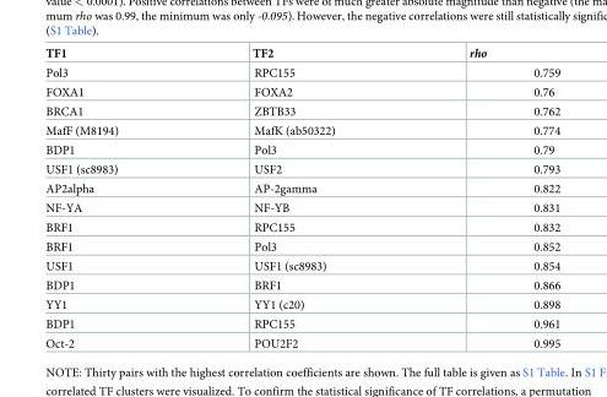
<table><thead><tr><td>TF1</td><td>TF2</td><td>rho</td></tr></thead><tbody><tr><td>Pol3</td><td>RPC155</td><td>0.759</td></tr><tr><td>FOXA1</td><td>FOXA2</td><td>0.76</td></tr><tr><td>BRCA1</td><td>ZBTB33</td><td>0.762</td></tr><tr><td>MafF (M8194)</td><td>MafK (ab50322)</td><td>0.774</td></tr><tr><td>BDP1</td><td>Pol3</td><td>0.79</td></tr><tr><td>USF1 (sc8983)</td><td>USF2</td><td>0.793</td></tr><tr><td>AP2alpha</td><td>AP-2gamma</td><td>0.822</td></tr><tr><td>NF-YA</td><td>NF-YB</td><td>0.831</td></tr><tr><td>BRF1</td><td>RPC155</td><td>0.832</td></tr><tr><td>BRF1</td><td>Pol3</td><td>0.852</td></tr><tr><td>USF1</td><td>USF1 (sc8983)</td><td>0.854</td></tr><tr><td>BDP1</td><td>BRF1</td><td>0.866</td></tr><tr><td>YY1</td><td>YY1 (c20)</td><td>0.898</td></tr><tr><td>BDP1</td><td>RPC155</td><td>0.961</td></tr><tr><td>Oct-2</td><td>POU2F2</td><td>0.995</td></tr></tbody></table>